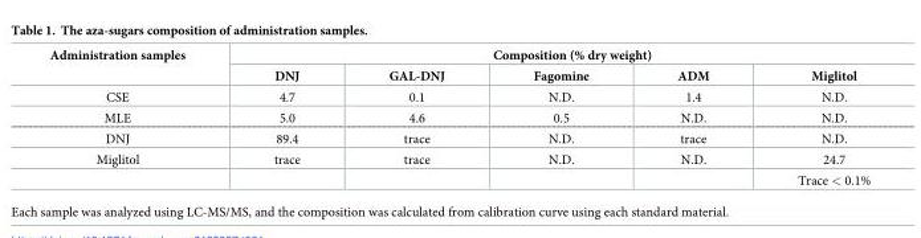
<table><thead><tr><td rowspan="2">Administration samples</td><td colspan="5">Composition (% dry weight)</td></tr><tr><td>DNJ</td><td>GAL-DNJ</td><td>Fagomine</td><td>ADM</td><td>Miglitol</td></tr></thead><tbody><tr><td>CSE</td><td>4.7</td><td>0.1</td><td>N.D.</td><td>1.4</td><td>N.D.</td></tr><tr><td>MLE</td><td>5.0</td><td>4.6</td><td>0.5</td><td>N.D.</td><td>N.D.</td></tr><tr><td>DNJ</td><td>89.4</td><td>trace</td><td>N.D.</td><td>trace</td><td>N.D.</td></tr><tr><td rowspan="2">Miglitol</td><td>trace</td><td>trace</td><td>N.D.</td><td>N.D.</td><td>24.7</td></tr><tr><td></td><td></td><td></td><td></td><td>Trace &lt; 0.1%</td></tr></tbody></table>